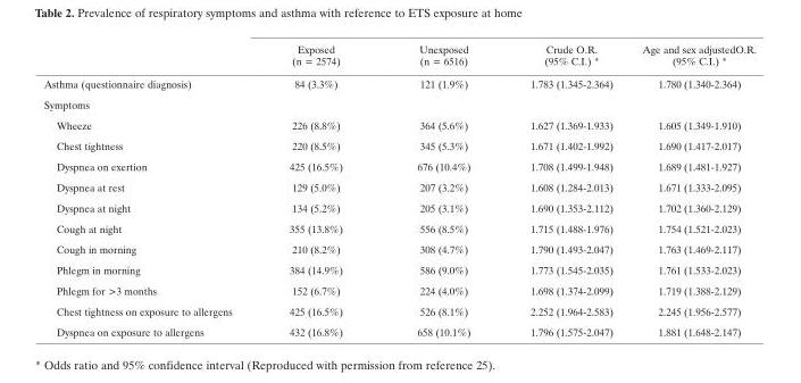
<table><thead><tr><td></td><td>Exposed (n = 2574)</td><td>Unexposed (n = 6516)</td><td>Crude O.R. (95% C.I.) *</td><td>Age and sex adjustedO.R. (95% C.I.) *</td></tr></thead><tbody><tr><td>Asthma (questionnaire diagnosis)</td><td>84 (3.3%)</td><td>121 (1.9%)</td><td>1.783 (1.345-2.364)</td><td>1.780 (1.340-2.364)</td></tr><tr><td colspan="5">Symptoms</td></tr><tr><td>Wheeze</td><td>226 (8.8%)</td><td>364 (5.6%)</td><td>1.627 (1.369-1.933)</td><td>1.605 (1.349-1.910)</td></tr><tr><td>Chest tightness</td><td>220 (8.5%)</td><td>345 (5.3%)</td><td>1.671 (1.402-1.992)</td><td>1.690 (1.417-2.017)</td></tr><tr><td>Dyspnea on exertion</td><td>425 (16.5%)</td><td>676 (10.4%)</td><td>1.708 (1.499-1.948)</td><td>1.689 (1.481-1.927)</td></tr><tr><td>Dyspnea at rest</td><td>129 (5.0%)</td><td>207 (3.2%)</td><td>1.608 (1.284-2.013)</td><td>1.671 (1.333-2.095)</td></tr><tr><td>Dyspnea at night</td><td>134 (5.2%)</td><td>205 (3.1%)</td><td>1.690 (1.353-2.112)</td><td>1.702 (1.360-2.129)</td></tr><tr><td>Cough at night</td><td>355 (13.8%)</td><td>556 (8.5%)</td><td>1.715 (1.488-1.976)</td><td>1.754 (1.521-2.023)</td></tr><tr><td>Cough in morning</td><td>210 (8.2%)</td><td>308 (4.7%)</td><td>1.790 (1.493-2.047)</td><td>1.763 (1.469-2.117)</td></tr><tr><td>Phlegm in morning</td><td>384 (14.9%)</td><td>586 (9.0%)</td><td>1.773 (1.545-2.035)</td><td>1.761 (1.533-2.023)</td></tr><tr><td>Phlegm for &gt;3 months</td><td>152 (6.7%)</td><td>224 (4.0%)</td><td>1.698 (1.374-2.099)</td><td>1.719 (1.388-2.129)</td></tr><tr><td>Chest tightness on exposure to allergens</td><td>425 (16.5%)</td><td>526 (8.1%)</td><td>2.252 (1.964-2.583)</td><td>2.245 (1.956-2.577)</td></tr><tr><td>Dyspnea on exposure to allergens</td><td>432 (16.8%)</td><td>658 (10.1%)</td><td>1.796 (1.575-2.047)</td><td>1.881 (1.648-2.147)</td></tr></tbody></table>